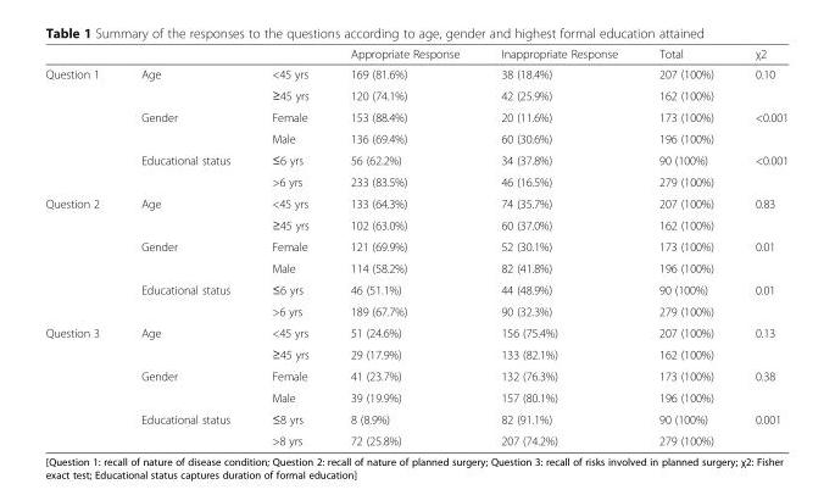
<table><thead><tr><td></td><td></td><td></td><td>Appropriate Response</td><td>Inappropriate Response</td><td>Total</td><td>χ2</td></tr></thead><tbody><tr><td rowspan="6">Question 1</td><td rowspan="2">Age</td><td>&lt;45 yrs</td><td>169 (81.6%)</td><td>38 (18.4%)</td><td>207 (100%)</td><td rowspan="2">0.10</td></tr><tr><td>≥45 yrs</td><td>120 (74.1%)</td><td>42 (25.9%)</td><td>162 (100%)</td></tr><tr><td rowspan="2">Gender</td><td>Female</td><td>153 (88.4%)</td><td>20 (11.6%)</td><td>173 (100%)</td><td rowspan="2">&lt;0.001</td></tr><tr><td>Male</td><td>136 (69.4%)</td><td>60 (30.6%)</td><td>196 (100%)</td></tr><tr><td rowspan="2">Educational status</td><td>≤6 yrs</td><td>56 (62.2%)</td><td>34 (37.8%)</td><td>90 (100%)</td><td rowspan="2">&lt;0.001</td></tr><tr><td>&gt;6 yrs</td><td>233 (83.5%)</td><td>46 (16.5%)</td><td>279 (100%)</td></tr><tr><td rowspan="6">Question 2</td><td rowspan="2">Age</td><td>&lt;45 yrs</td><td>133 (64.3%)</td><td>74 (35.7%)</td><td>207 (100%)</td><td rowspan="2">0.83</td></tr><tr><td>≥45 yrs</td><td>102 (63.0%)</td><td>60 (37.0%)</td><td>162 (100%)</td></tr><tr><td rowspan="2">Gender</td><td>Female</td><td>121 (69.9%)</td><td>52 (30.1%)</td><td>173 (100%)</td><td rowspan="2">0.01</td></tr><tr><td>Male</td><td>114 (58.2%)</td><td>82 (41.8%)</td><td>196 (100%)</td></tr><tr><td rowspan="2">Educational status</td><td>≤6 yrs</td><td>46 (51.1%)</td><td>44 (48.9%)</td><td>90 (100%)</td><td rowspan="2">0.01</td></tr><tr><td>&gt;6 yrs</td><td>189 (67.7%)</td><td>90 (32.3%)</td><td>279 (100%)</td></tr><tr><td rowspan="6">Question 3</td><td rowspan="2">Age</td><td>&lt;45 yrs</td><td>51 (24.6%)</td><td>156 (75.4%)</td><td>207 (100%)</td><td rowspan="2">0.13</td></tr><tr><td>≥45 yrs</td><td>29 (17.9%)</td><td>133 (82.1%)</td><td>162 (100%)</td></tr><tr><td rowspan="2">Gender</td><td>Female</td><td>41 (23.7%)</td><td>132 (76.3%)</td><td>173 (100%)</td><td rowspan="2">0.38</td></tr><tr><td>Male</td><td>39 (19.9%)</td><td>157 (80.1%)</td><td>196 (100%)</td></tr><tr><td rowspan="2">Educational status</td><td>≤8 yrs</td><td>8 (8.9%)</td><td>82 (91.1%)</td><td>90 (100%)</td><td rowspan="2">0.001</td></tr><tr><td>&gt;8 yrs</td><td>72 (25.8%)</td><td>207 (74.2%)</td><td>279 (100%)</td></tr></tbody></table>